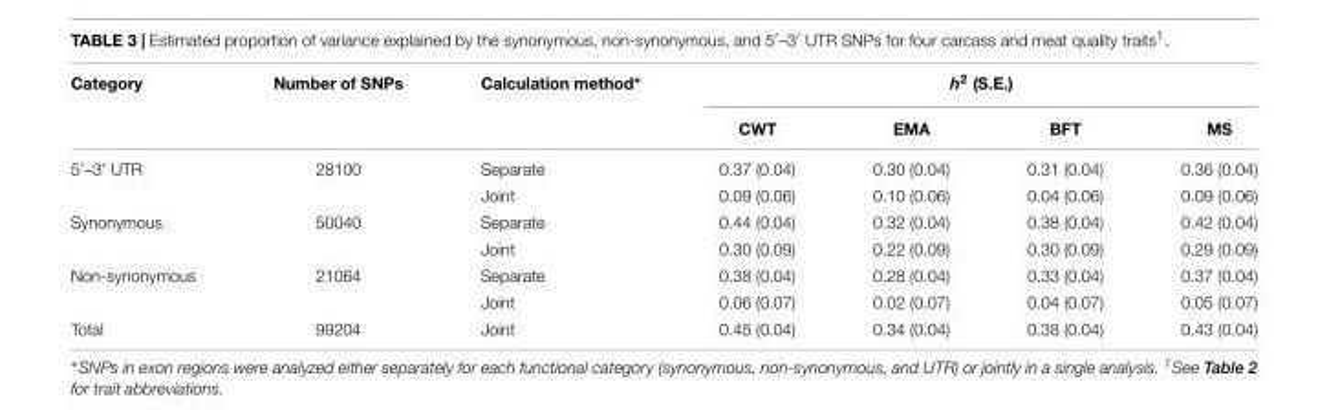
<table><thead><tr><td rowspan="2">Category</td><td rowspan="2">Number of SNPs</td><td rowspan="2">Calculation method∗</td><td colspan="4">h<sup>2</sup> (S.E.)</td></tr><tr><td>CWT</td><td>EMA</td><td>BFT</td><td>MS</td></tr></thead><tbody><tr><td rowspan="2">5′–3′ UTR</td><td>28100</td><td>Separate</td><td>0.37 (0.04)</td><td>0.30 (0.04)</td><td>0.31 (0.04)</td><td>0.36 (0.04)</td></tr><tr><td></td><td>Joint</td><td>0.09 (0.06)</td><td>0.10 (0.06)</td><td>0.04 (0.06)</td><td>0.09 (0.06)</td></tr><tr><td rowspan="2">Synonymous</td><td>50040</td><td>Separate</td><td>0.44 (0.04)</td><td>0.32 (0.04)</td><td>0.38 (0.04)</td><td>0.42 (0.04)</td></tr><tr><td></td><td>Joint</td><td>0.30 (0.09)</td><td>0.22 (0.09)</td><td>0.30 (0.09)</td><td>0.29 (0.09)</td></tr><tr><td rowspan="2">Non-synonymous</td><td>21064</td><td>Separate</td><td>0.38 (0.04)</td><td>0.28 (0.04)</td><td>0.33 (0.04)</td><td>0.37 (0.04)</td></tr><tr><td></td><td>Joint</td><td>0.06 (0.07)</td><td>0.02 (0.07)</td><td>0.04 (0.07)</td><td>0.05 (0.07)</td></tr><tr><td>Total</td><td>99204</td><td>Joint</td><td>0.45 (0.04)</td><td>0.34 (0.04)</td><td>0.38 (0.04)</td><td>0.43 (0.04)</td></tr></tbody></table>